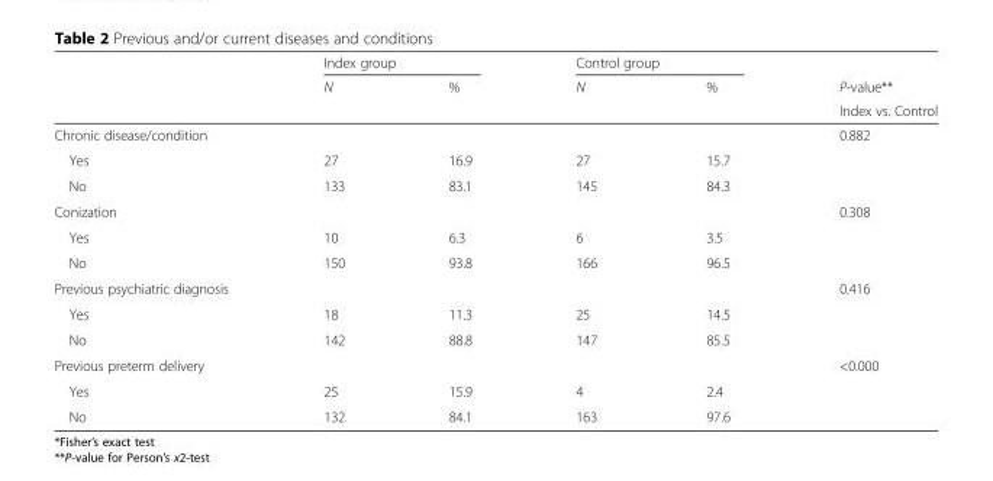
<table><thead><tr><td rowspan="3"></td><td colspan="2">Index group</td><td colspan="2">Control group</td><td rowspan="3">P-value** Index vs. Control</td></tr><tr><td rowspan="2">N</td><td rowspan="2">%</td><td rowspan="2">N</td><td rowspan="2">%</td></tr><tr></tr></thead><tbody><tr><td>Chronic disease/condition</td><td></td><td></td><td></td><td></td><td>0.882</td></tr><tr><td>Yes</td><td>27</td><td>16.9</td><td>27</td><td>15.7</td><td></td></tr><tr><td>No</td><td>133</td><td>83.1</td><td>145</td><td>84.3</td><td></td></tr><tr><td>Conization</td><td></td><td></td><td></td><td></td><td>0.308</td></tr><tr><td>Yes</td><td>10</td><td>6.3</td><td>6</td><td>3.5</td><td></td></tr><tr><td>No</td><td>150</td><td>93.8</td><td>166</td><td>96.5</td><td></td></tr><tr><td>Previous psychiatric diagnosis</td><td></td><td></td><td></td><td></td><td>0.416</td></tr><tr><td>Yes</td><td>18</td><td>11.3</td><td>25</td><td>14.5</td><td></td></tr><tr><td>No</td><td>142</td><td>88.8</td><td>147</td><td>85.5</td><td></td></tr><tr><td>Previous preterm delivery</td><td></td><td></td><td></td><td></td><td>&lt;0.000</td></tr><tr><td>Yes</td><td>25</td><td>15.9</td><td>4</td><td>2.4</td><td></td></tr><tr><td>No</td><td>132</td><td>84.1</td><td>163</td><td>97.6</td><td></td></tr></tbody></table>